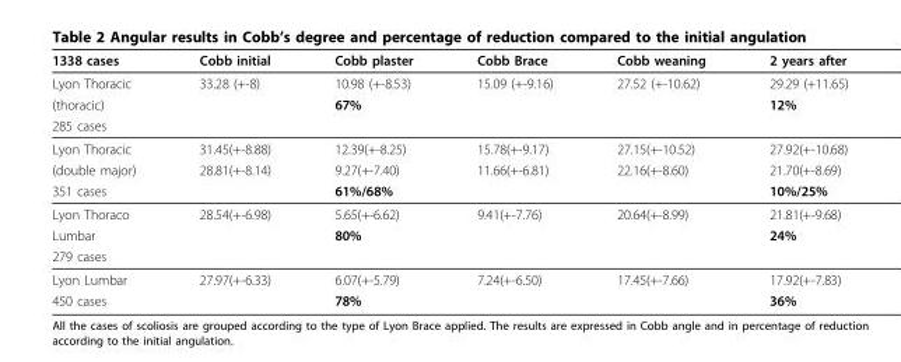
<table><thead><tr><td>1338 cases</td><td>Cobb initial</td><td>Cobb plaster</td><td>Cobb Brace</td><td>Cobb weaning</td><td>2 years after</td></tr></thead><tbody><tr><td>Lyon Thoracic</td><td>33.28 (+-8)</td><td>10.98 (+-8.53)</td><td>15.09 (+-9.16)</td><td>27.52 (+-10.62)</td><td>29.29 (+11.65)</td></tr><tr><td>(thoracic)</td><td></td><td>67%</td><td></td><td></td><td>12%</td></tr><tr><td colspan="6">285 cases</td></tr><tr><td>Lyon Thoracic</td><td>31.45(+-8.88)</td><td>12.39(+-8.25)</td><td>15.78(+-9.17)</td><td>27.15(+-10.52)</td><td>27.92(+-10.68)</td></tr><tr><td>(double major)</td><td>28.81(+-8.14)</td><td>9.27(+-7.40)</td><td>11.66(+-6.81)</td><td>22.16(+-8.60)</td><td>21.70(+-8.69)</td></tr><tr><td>351 cases</td><td></td><td>61%/68%</td><td></td><td></td><td>10%/25%</td></tr><tr><td>Lyon Thoraco</td><td>28.54(+-6.98)</td><td>5.65(+-6.62)</td><td>9.41(+-7.76)</td><td>20.64(+-8.99)</td><td>21.81(+-9.68)</td></tr><tr><td>Lumbar</td><td></td><td>80%</td><td></td><td></td><td>24%</td></tr><tr><td colspan="6">279 cases</td></tr><tr><td>Lyon Lumbar</td><td>27.97(+-6.33)</td><td>6.07(+-5.79)</td><td>7.24(+-6.50)</td><td>17.45(+-7.66)</td><td>17.92(+-7.83)</td></tr><tr><td>450 cases</td><td></td><td>78%</td><td></td><td></td><td>36%</td></tr></tbody></table>